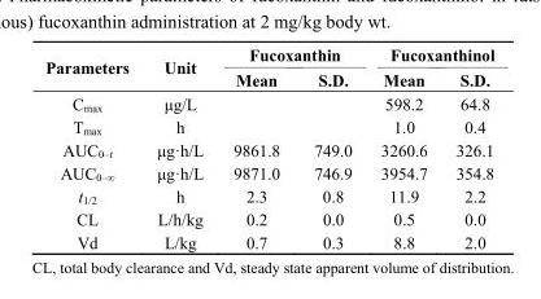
<table><thead><tr><td rowspan="2">Parameters</td><td rowspan="2">Unit</td><td colspan="2">Fucoxanthin</td><td colspan="2">Fucoxanthinol</td></tr><tr><td>Mean</td><td>S.D.</td><td>Mean</td><td>S.D.</td></tr></thead><tbody><tr><td>C<sub>max</sub></td><td>μg/L</td><td></td><td></td><td>598.2</td><td>64.8</td></tr><tr><td>T<sub>max</sub></td><td>h</td><td></td><td></td><td>1.0</td><td>0.4</td></tr><tr><td>AUC<sub>0–t</sub></td><td>μg·h/L</td><td>9861.8</td><td>749.0</td><td>3260.6</td><td>326.1</td></tr><tr><td>AUC<sub>0–∞</sub></td><td>μg·h/L</td><td>9871.0</td><td>746.9</td><td>3954.7</td><td>354.8</td></tr><tr><td>t<sub>1/2</sub></td><td>h</td><td>2.3</td><td>0.8</td><td>11.9</td><td>2.2</td></tr><tr><td>CL</td><td>L/h/kg</td><td>0.2</td><td>0.0</td><td>0.5</td><td>0.0</td></tr><tr><td>Vd</td><td>L/kg</td><td>0.7</td><td>0.3</td><td>8.8</td><td>2.0</td></tr></tbody></table>